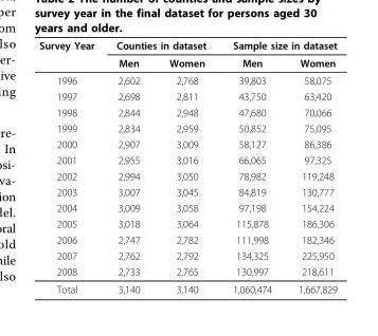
<table><thead><tr><td rowspan="2">Survey Year</td><td colspan="2">Counties in dataset</td><td colspan="2">Sample size in dataset</td></tr><tr><td>Men</td><td>Women</td><td>Men</td><td>Women</td></tr></thead><tbody><tr><td>1996</td><td>2,602</td><td>2,768</td><td>39,803</td><td>58,075</td></tr><tr><td>1997</td><td>2,698</td><td>2,811</td><td>43,750</td><td>63,420</td></tr><tr><td>1998</td><td>2,844</td><td>2,948</td><td>47,680</td><td>70,066</td></tr><tr><td>1999</td><td>2,834</td><td>2,959</td><td>50,852</td><td>75,095</td></tr><tr><td>2000</td><td>2,907</td><td>3,009</td><td>58,127</td><td>86,386</td></tr><tr><td>2001</td><td>2,955</td><td>3,016</td><td>66,065</td><td>97,325</td></tr><tr><td>2002</td><td>2,994</td><td>3,050</td><td>78,982</td><td>119,248</td></tr><tr><td>2003</td><td>3,007</td><td>3,045</td><td>84,819</td><td>130,777</td></tr><tr><td>2004</td><td>3,009</td><td>3,058</td><td>97,198</td><td>154,224</td></tr><tr><td>2005</td><td>3,018</td><td>3,064</td><td>115,878</td><td>186,306</td></tr><tr><td>2006</td><td>2,747</td><td>2,782</td><td>111,998</td><td>182,346</td></tr><tr><td>2007</td><td>2,762</td><td>2,792</td><td>134,325</td><td>225,950</td></tr><tr><td>2008</td><td>2,733</td><td>2,765</td><td>130,997</td><td>218,611</td></tr><tr><td>Total</td><td>3,140</td><td>3,140</td><td>1,060,474</td><td>1,667,829</td></tr></tbody></table>